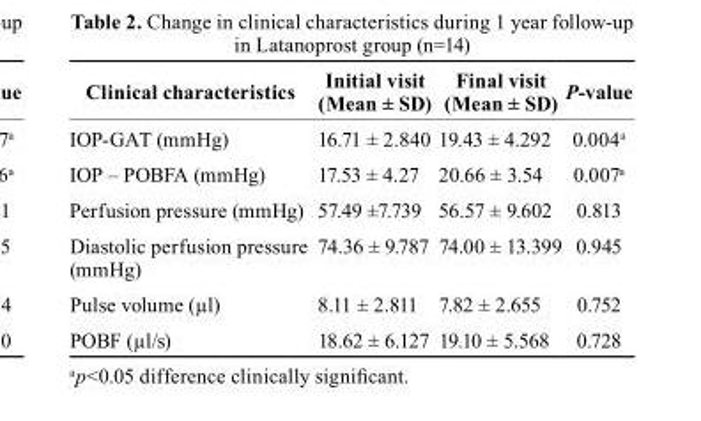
<table><thead><tr><td>clinical characteristics</td><td>Initial visit (Mean ± SD)</td><td>Final visit (Mean ± SD)</td><td>P-value</td></tr></thead><tbody><tr><td>IOP-GAT (mmHg)</td><td>16.71 ± 2.840</td><td>19.43 ± 4.292</td><td>0.004<sup>a</sup></td></tr><tr><td>IOP – POBFA (mmHg)</td><td>17.53 ± 4.27</td><td>20.66 ± 3.54</td><td>0.007<sup>a</sup></td></tr><tr><td>Perfusion pressure (mmHg)</td><td>57.49 ±7.739</td><td>56.57 ± 9.602</td><td>0.813</td></tr><tr><td>Diastolic perfusion pressure (mmHg)</td><td>74.36 ± 9.787</td><td>74.00 ± 13.399</td><td>0.945</td></tr><tr><td>Pulse volume (µl)</td><td>8.11 ± 2.811</td><td>7.82 ± 2.655</td><td>0.752</td></tr><tr><td>POBF (µl/s)</td><td>18.62 ± 6.127</td><td>19.10 ± 5.568</td><td>0.728</td></tr></tbody></table>